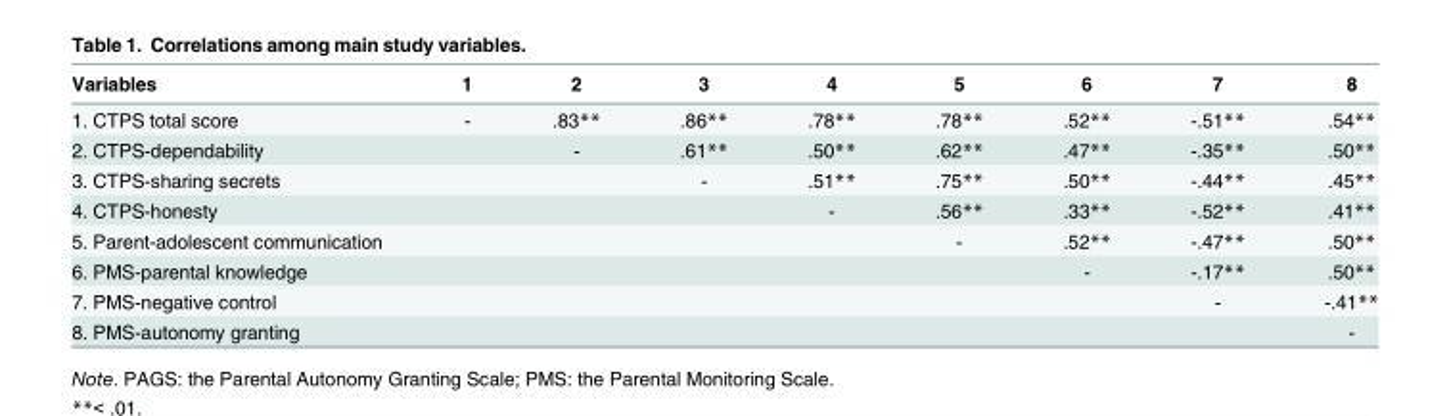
<table><thead><tr><td>Variables</td><td>1</td><td>2</td><td>3</td><td>4</td><td>5</td><td>6</td><td>7</td><td>8</td></tr></thead><tbody><tr><td>1. CTPS total score</td><td>-</td><td>.83**</td><td>.86**</td><td>.78**</td><td>.78**</td><td>.52**</td><td>-.51**</td><td>.54**</td></tr><tr><td>2. CTPS-dependability</td><td></td><td>-</td><td>.61**</td><td>.50**</td><td>.62**</td><td>.47**</td><td>-.35**</td><td>.50**</td></tr><tr><td>3. CTPS-sharing secrets</td><td></td><td></td><td>-</td><td>.51**</td><td>.75**</td><td>.50**</td><td>-.44**</td><td>.45**</td></tr><tr><td>4. CTPS-honesty</td><td></td><td></td><td></td><td>-</td><td>.56**</td><td>.33**</td><td>-.52**</td><td>.41**</td></tr><tr><td>5. Parent-adolescent communication</td><td></td><td></td><td></td><td></td><td>-</td><td>.52**</td><td>-.47**</td><td>.50**</td></tr><tr><td>6. PMS-parental knowledge</td><td></td><td></td><td></td><td></td><td></td><td>-</td><td>-.17**</td><td>.50**</td></tr><tr><td>7. PMS-negative control</td><td></td><td></td><td></td><td></td><td></td><td></td><td>-</td><td>-.41**</td></tr><tr><td>8. PMS-autonomy granting</td><td></td><td></td><td></td><td></td><td></td><td></td><td></td><td>-</td></tr></tbody></table>